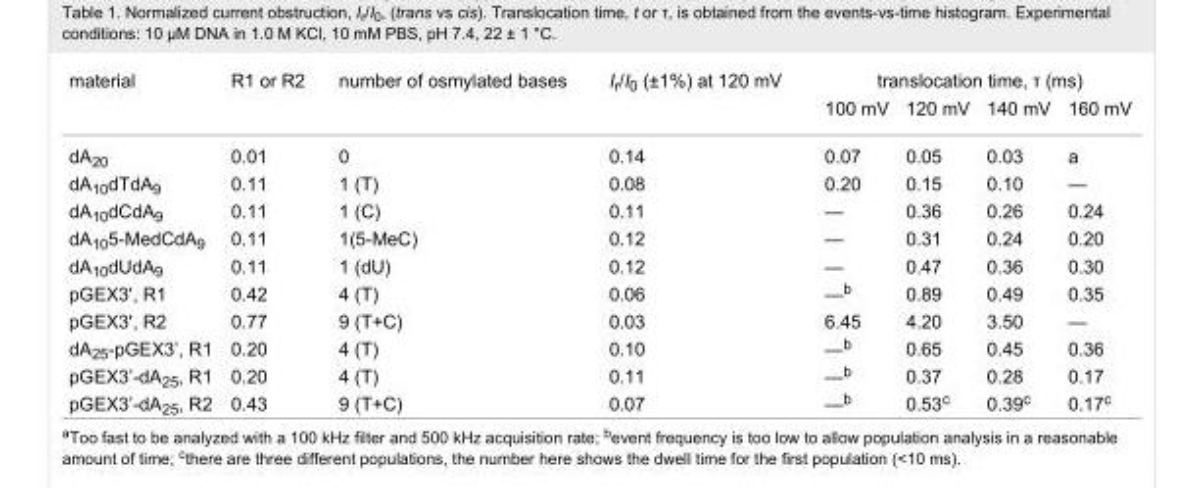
<table><tbody><tr><td>material</td><td>R1 or R2</td><td>number of osmylated bases</td><td>I<sub>r</sub>/I<sub>0</sub> (±1%) at 120 mV</td><td colspan="4">translocation time, τ (ms)</td></tr><tr><td colspan="4"></td><td>100 mV</td><td>120 mV</td><td>140 mV</td><td>160 mV</td></tr><tr><td>dA<sub>20</sub></td><td>0.01</td><td>0</td><td>0.14</td><td>0.07</td><td>0.05</td><td>0.03</td><td>a</td></tr><tr><td>dA<sub>10</sub>dTdA<sub>9</sub></td><td>0.11</td><td>1 (T)</td><td>0.08</td><td>0.20</td><td>0.15</td><td>0.10</td><td>—</td></tr><tr><td>dA<sub>10</sub>dCdA<sub>9</sub></td><td>0.11</td><td>1 (C)</td><td>0.11</td><td>—</td><td>0.36</td><td>0.26</td><td>0.24</td></tr><tr><td>dA<sub>10</sub>5-MedCdA<sub>9</sub></td><td>0.11</td><td>1(5-MeC)</td><td>0.12</td><td>—</td><td>0.31</td><td>0.24</td><td>0.20</td></tr><tr><td>dA<sub>10</sub>dUdA<sub>9</sub></td><td>0.11</td><td>1 (dU)</td><td>0.12</td><td>—</td><td>0.47</td><td>0.36</td><td>0.30</td></tr><tr><td>pGEX3&#x27;, R1</td><td>0.42</td><td>4 (T)</td><td>0.06</td><td>—<sup>b</sup></td><td>0.89</td><td>0.49</td><td>0.35</td></tr><tr><td>pGEX3&#x27;, R2</td><td>0.77</td><td>9 (T+C)</td><td>0.03</td><td>6.45</td><td>4.20</td><td>3.50</td><td>—</td></tr><tr><td>dA<sub>25</sub>-pGEX3’, R1</td><td>0.20</td><td>4 (T)</td><td>0.10</td><td>—<sup>b</sup></td><td>0.65</td><td>0.45</td><td>0.36</td></tr><tr><td>pGEX3’-dA<sub>25</sub>, R1</td><td>0.20</td><td>4 (T)</td><td>0.11</td><td>—<sup>b</sup></td><td>0.37</td><td>0.28</td><td>0.17</td></tr><tr><td>pGEX3’-dA<sub>25</sub>, R2</td><td>0.43</td><td>9 (T+C)</td><td>0.07</td><td>—<sup>b</sup></td><td>0.53<sup>c</sup></td><td>0.39<sup>c</sup></td><td>0.17<sup>c</sup></td></tr></tbody></table>